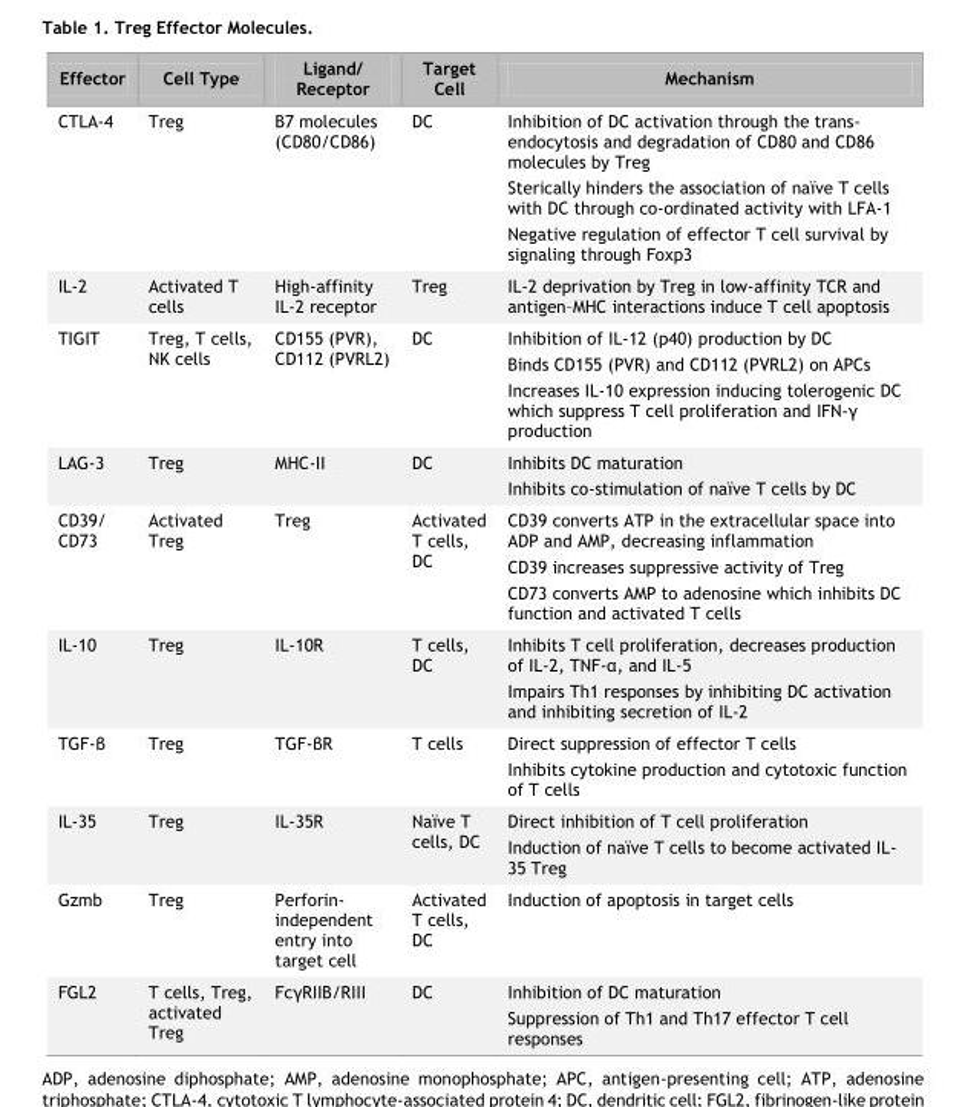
<table><thead><tr><td>Effector</td><td>Cell Type</td><td>Ligand/ Receptor</td><td>Target Cell</td><td>Mechanism</td></tr></thead><tbody><tr><td>CTLA-4</td><td>Treg</td><td>B7 molecules (CD80/CD86)</td><td>DC</td><td>Inhibition of DC activation through the trans- endocytosis and degradation of CD80 and CD86 molecules by Treg Sterically hinders the association of naïve T cells with DC through co-ordinated activity with LFA-1 Negative regulation of effector T cell survival by signaling through Foxp3</td></tr><tr><td>IL-2</td><td>Activated T cells</td><td>High-affinity IL-2 receptor</td><td>Treg</td><td>IL-2 deprivation by Treg in low-affinity TCR and antigen–MHC interactions induce T cell apoptosis</td></tr><tr><td>TIGIT</td><td>Treg, T cells, NK cells</td><td>CD155 (PVR), CD112 (PVRL2)</td><td>DC</td><td>Inhibition of IL-12 (p40) production by DC Binds CD155 (PVR) and CD112 (PVRL2) on APCs Increases IL-10 expression inducing tolerogenic DC which suppress T cell proliferation and IFN-γ production</td></tr><tr><td>LAG-3</td><td>Treg</td><td>MHC-II</td><td>DC</td><td>Inhibits DC maturation Inhibits co-stimulation of naïve T cells by DC</td></tr><tr><td>CD39/ CD73</td><td>Activated Treg</td><td>Treg</td><td>Activated T cells, DC</td><td>CD39 converts ATP in the extracellular space into ADP and AMP, decreasing inflammation CD39 increases suppressive activity of Treg CD73 converts AMP to adenosine which inhibits DC function and activated T cells</td></tr><tr><td>IL-10</td><td>Treg</td><td>IL-10R</td><td>T cells, DC</td><td>Inhibits T cell proliferation, decreases production of IL-2, TNF-α, and IL-5 Impairs Th1 responses by inhibiting DC activation and inhibiting secretion of IL-2</td></tr><tr><td>TGF-β</td><td>Treg</td><td>TGF-βR</td><td>T cells</td><td>Direct suppression of effector T cells Inhibits cytokine production and cytotoxic function of T cells</td></tr><tr><td>IL-35</td><td>Treg</td><td>IL-35R</td><td>Naïve T cells, DC</td><td>Direct inhibition of T cell proliferation Induction of naïve T cells to become activated IL- 35 Treg</td></tr><tr><td>Gzmb</td><td>Treg</td><td>Perforin- independent entry into target cell</td><td>Activated T cells, DC</td><td>Induction of apoptosis in target cells</td></tr><tr><td>FGL2</td><td>T cells, Treg, activated Treg</td><td>FcγRIIB/RIII</td><td>DC</td><td>Inhibition of DC maturation Suppression of Th1 and Th17 effector T cell responses</td></tr></tbody></table>